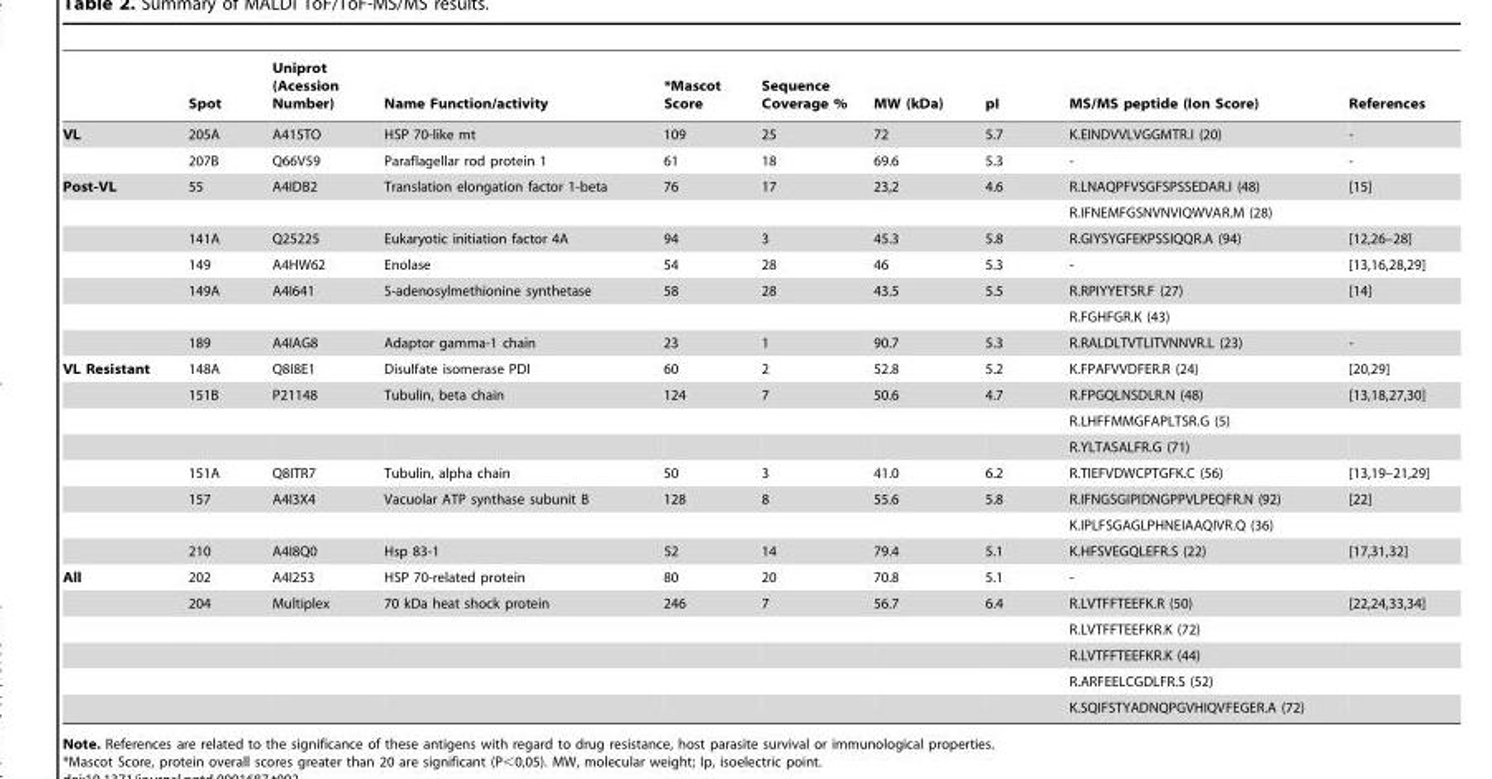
<table><thead><tr><td></td><td>Spot</td><td>Uniprot (Acession Number)</td><td>Name Function/activity</td><td>*Mascot Score</td><td>Sequence Coverage %</td><td>MW (kDa)</td><td>pI</td><td>MS/MS peptide (Ion Score)</td><td>References</td></tr></thead><tbody><tr><td rowspan="2">VL</td><td>205A</td><td>A415TO</td><td>HSP 70-like mt</td><td>109</td><td>25</td><td>72</td><td>5.7</td><td>K.EINDVVLVGGMTR.I (20)</td><td>-</td></tr><tr><td>207B</td><td>Q66V59</td><td>Paraflagellar rod protein 1</td><td>61</td><td>18</td><td>69.6</td><td>5.3</td><td>-</td><td>-</td></tr><tr><td rowspan="7">Post-VL</td><td>55</td><td>A4IDB2</td><td>Translation elongation factor 1-beta</td><td>76</td><td>17</td><td>23,2</td><td>4.6</td><td>R.LNAQPFVSGFSPSSEDAR.I (48)</td><td>[15]</td></tr><tr><td></td><td></td><td></td><td></td><td></td><td></td><td></td><td>R.IFNEMFGSNVNVIQWVAR.M (28)</td><td></td></tr><tr><td>141A</td><td>Q25225</td><td>Eukaryotic initiation factor 4A</td><td>94</td><td>3</td><td>45.3</td><td>5.8</td><td>R.GIYSYGFEKPSSIQQR.A (94)</td><td>[12,26–28]</td></tr><tr><td>149</td><td>A4HW62</td><td>Enolase</td><td>54</td><td>28</td><td>46</td><td>5.3</td><td>-</td><td>[13,16,28,29]</td></tr><tr><td>149A</td><td>A4I641</td><td>S-adenosylmethionine synthetase</td><td>58</td><td>28</td><td>43.5</td><td>5.5</td><td>R.RPIYYETSR.F (27)</td><td>[14]</td></tr><tr><td></td><td></td><td></td><td></td><td></td><td></td><td></td><td>R.FGHFGR.K (43)</td><td></td></tr><tr><td>189</td><td>A4IAG8</td><td>Adaptor gamma-1 chain</td><td>23</td><td>1</td><td>90.7</td><td>5.3</td><td>R.RALDLTVTLITVNNVR.L (23)</td><td>-</td></tr><tr><td rowspan="8">VL Resistant</td><td>148A</td><td>Q8I8E1</td><td>Disulfate isomerase PDI</td><td>60</td><td>2</td><td>52.8</td><td>5.2</td><td>K.FPAFVVDFER.R (24)</td><td>[20,29]</td></tr><tr><td>151B</td><td>P21148</td><td>Tubulin, beta chain</td><td>124</td><td>7</td><td>50.6</td><td>4.7</td><td>R.FPGQLNSDLR.N (48)</td><td>[13,18,27,30]</td></tr><tr><td></td><td></td><td></td><td></td><td></td><td></td><td></td><td>R.LHFFMMGFAPLTSR.G (5)</td><td></td></tr><tr><td></td><td></td><td></td><td></td><td></td><td></td><td></td><td>R.YLTASALFR.G (71)</td><td></td></tr><tr><td>151A</td><td>Q8ITR7</td><td>Tubulin, alpha chain</td><td>50</td><td>3</td><td>41.0</td><td>6.2</td><td>R.TIEFVDWCPTGFK.C (56)</td><td>[13,19–21,29]</td></tr><tr><td>157</td><td>A4I3X4</td><td>Vacuolar ATP synthase subunit B</td><td>128</td><td>8</td><td>55.6</td><td>5.8</td><td>R.IFNGSGIPIDNGPPVLPEQFR.N (92)</td><td>[22]</td></tr><tr><td></td><td></td><td></td><td></td><td></td><td></td><td></td><td>K.IPLFSGAGLPHNEIAAQIVR.Q (36)</td><td></td></tr><tr><td>210</td><td>A4I8Q0</td><td>Hsp 83-1</td><td>52</td><td>14</td><td>79.4</td><td>5.1</td><td>K.HFSVEGQLEFR.S (22)</td><td>[17,31,32]</td></tr><tr><td rowspan="6">All</td><td>202</td><td>A4I253</td><td>HSP 70-related protein</td><td>80</td><td>20</td><td>70.8</td><td>5.1</td><td>-</td><td></td></tr><tr><td>204</td><td>Multiplex</td><td>70 kDa heat shock protein</td><td>246</td><td>7</td><td>56.7</td><td>6.4</td><td>R.LVTFFTEEFK.R (50)</td><td>[22,24,33,34]</td></tr><tr><td></td><td></td><td></td><td></td><td></td><td></td><td></td><td>R.LVTFFTEEFKR.K (72)</td><td></td></tr><tr><td></td><td></td><td></td><td></td><td></td><td></td><td></td><td>R.LVTFFTEEFKR.K (44)</td><td></td></tr><tr><td></td><td></td><td></td><td></td><td></td><td></td><td></td><td>R.ARFEELCGDLFR.S (52)</td><td></td></tr><tr><td></td><td></td><td></td><td></td><td></td><td></td><td></td><td>K.SQIFSTYADNQPGVHIQVFEGER.A (72)</td><td></td></tr></tbody></table>